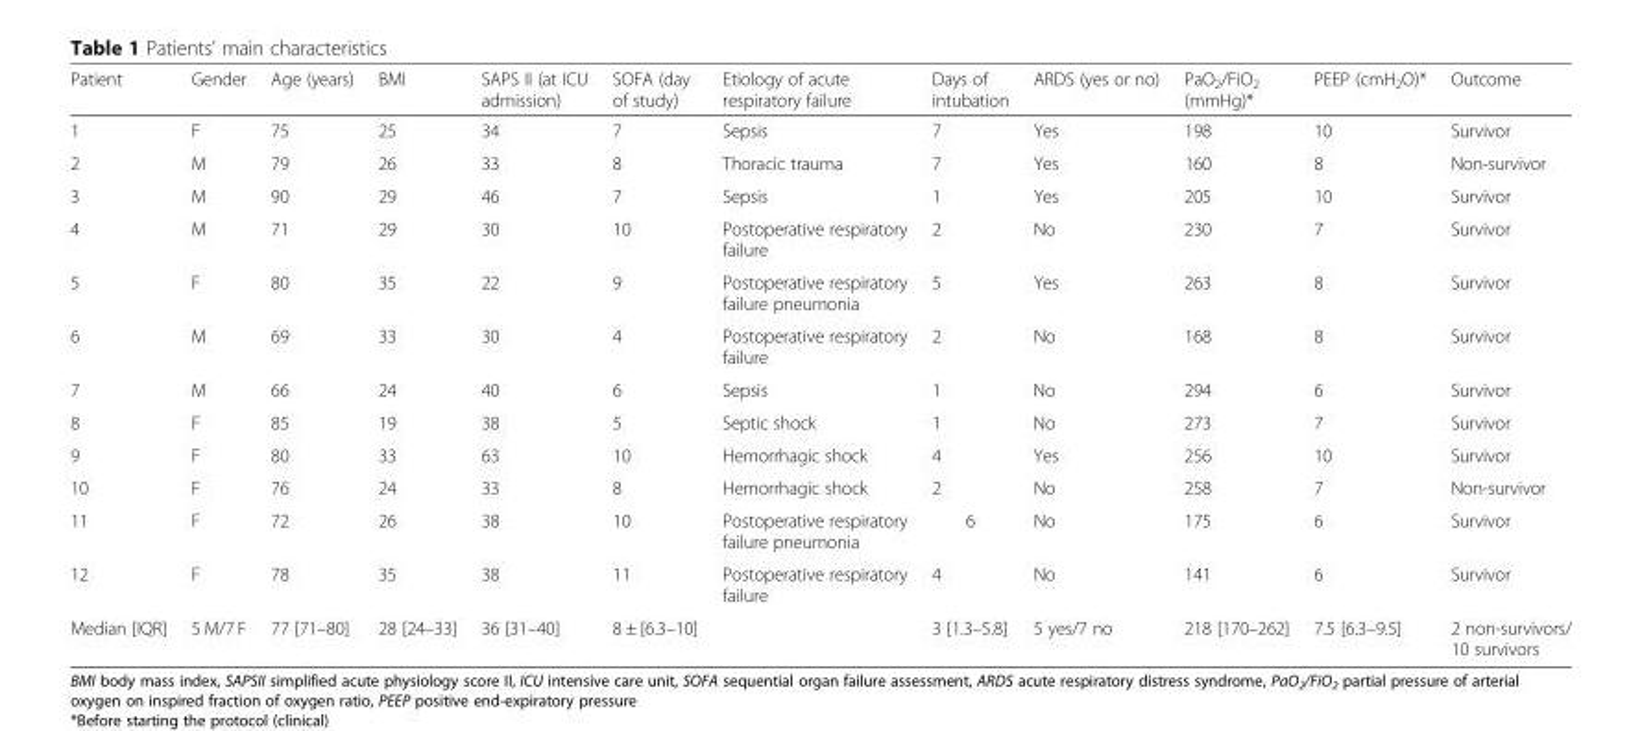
<table><thead><tr><td>Patient</td><td>Gender</td><td>Age (years)</td><td>BMI</td><td>SAPS II (at ICU admission)</td><td>SOFA (day of study)</td><td>Etiology of acute respiratory failure</td><td>Days of intubation</td><td>ARDS (yes or no)</td><td>PaO<sub>2</sub>/FiO<sub>2</sub> (mmHg)*</td><td>PEEP (cmH<sub>2</sub>O)*</td><td>Outcome</td></tr></thead><tbody><tr><td>1</td><td>F</td><td>75</td><td>25</td><td>34</td><td>7</td><td>Sepsis</td><td>7</td><td>Yes</td><td>198</td><td>10</td><td>Survivor</td></tr><tr><td>2</td><td>M</td><td>79</td><td>26</td><td>33</td><td>8</td><td>Thoracic trauma</td><td>7</td><td>Yes</td><td>160</td><td>8</td><td>Non-survivor</td></tr><tr><td>3</td><td>M</td><td>90</td><td>29</td><td>46</td><td>7</td><td>Sepsis</td><td>1</td><td>Yes</td><td>205</td><td>10</td><td>Survivor</td></tr><tr><td>4</td><td>M</td><td>71</td><td>29</td><td>30</td><td>10</td><td>Postoperative respiratory failure</td><td>2</td><td>No</td><td>230</td><td>7</td><td>Survivor</td></tr><tr><td>5</td><td>F</td><td>80</td><td>35</td><td>22</td><td>9</td><td>Postoperative respiratory failure pneumonia</td><td>5</td><td>Yes</td><td>263</td><td>8</td><td>Survivor</td></tr><tr><td>6</td><td>M</td><td>69</td><td>33</td><td>30</td><td>4</td><td>Postoperative respiratory failure</td><td>2</td><td>No</td><td>168</td><td>8</td><td>Survivor</td></tr><tr><td>7</td><td>M</td><td>66</td><td>24</td><td>40</td><td>6</td><td>Sepsis</td><td>1</td><td>No</td><td>294</td><td>6</td><td>Survivor</td></tr><tr><td>8</td><td>F</td><td>85</td><td>19</td><td>38</td><td>5</td><td>Septic shock</td><td>1</td><td>No</td><td>273</td><td>7</td><td>Survivor</td></tr><tr><td>9</td><td>F</td><td>80</td><td>33</td><td>63</td><td>10</td><td>Hemorrhagic shock</td><td>4</td><td>Yes</td><td>256</td><td>10</td><td>Survivor</td></tr><tr><td>10</td><td>F</td><td>76</td><td>24</td><td>33</td><td>8</td><td>Hemorrhagic shock</td><td>2</td><td>No</td><td>258</td><td>7</td><td>Non-survivor</td></tr><tr><td>11</td><td>F</td><td>72</td><td>26</td><td>38</td><td>10</td><td>Postoperative respiratory failure pneumonia</td><td>6</td><td>No</td><td>175</td><td>6</td><td>Survivor</td></tr><tr><td>12</td><td>F</td><td>78</td><td>35</td><td>38</td><td>11</td><td>Postoperative respiratory failure</td><td>4</td><td>No</td><td>141</td><td>6</td><td>Survivor</td></tr><tr><td>Median [IQR]</td><td>5 M/7 F</td><td>77 [71–80]</td><td>28 [24–33]</td><td>36 [31–40]</td><td>8 ± [6.3–10]</td><td></td><td>3 [1.3–5.8]</td><td>5 yes/7 no</td><td>218 [170–262]</td><td>7.5 [6.3–9.5]</td><td>2 non-survivors/ 10 survivors</td></tr></tbody></table>